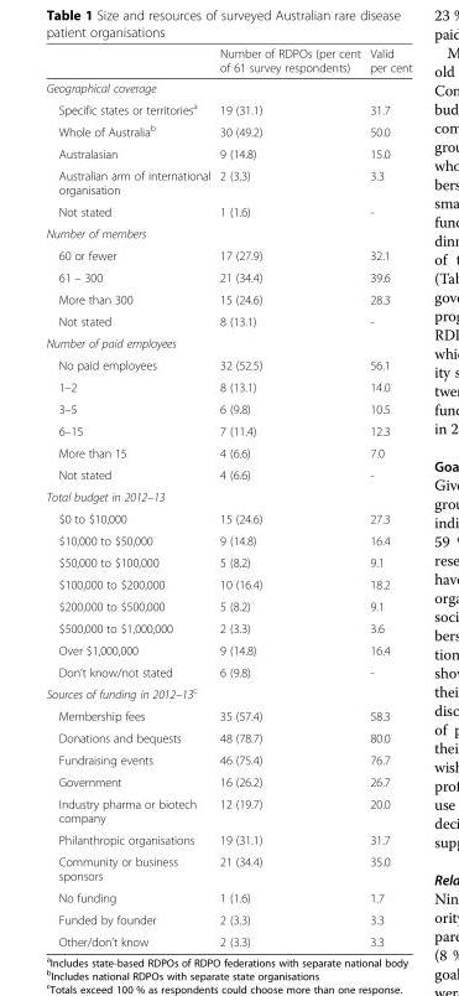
<table><thead><tr><td></td><td>Number of RDPOs (per cent of 61 survey respondents)</td><td>Valid per cent</td></tr></thead><tbody><tr><td colspan="3">Geographical coverage</td></tr><tr><td>Specific states or territories<sup>a</sup></td><td>19 (31.1)</td><td>31.7</td></tr><tr><td>Whole of Australia<sup>b</sup></td><td>30 (49.2)</td><td>50.0</td></tr><tr><td>Australasian</td><td>9 (14.8)</td><td>15.0</td></tr><tr><td>Australian arm of international organisation</td><td>2 (3.3)</td><td>3.3</td></tr><tr><td>Not stated</td><td>1 (1.6)</td><td>-</td></tr><tr><td colspan="3">Number of members</td></tr><tr><td>60 or fewer</td><td>17 (27.9)</td><td>32.1</td></tr><tr><td>61 – 300</td><td>21 (34.4)</td><td>39.6</td></tr><tr><td>More than 300</td><td>15 (24.6)</td><td>28.3</td></tr><tr><td>Not stated</td><td>8 (13.1)</td><td>-</td></tr><tr><td colspan="3">Number of paid employees</td></tr><tr><td>No paid employees</td><td>32 (52.5)</td><td>56.1</td></tr><tr><td>1–2</td><td>8 (13.1)</td><td>14.0</td></tr><tr><td>3–5</td><td>6 (9.8)</td><td>10.5</td></tr><tr><td>6–15</td><td>7 (11.4)</td><td>12.3</td></tr><tr><td>More than 15</td><td>4 (6.6)</td><td>7.0</td></tr><tr><td>Not stated</td><td>4 (6.6)</td><td>-</td></tr><tr><td colspan="3">Total budget in 2012–13</td></tr><tr><td>$0 to $10,000</td><td>15 (24.6)</td><td>27.3</td></tr><tr><td>$10,000 to $50,000</td><td>9 (14.8)</td><td>16.4</td></tr><tr><td>$50,000 to $100,000</td><td>5 (8.2)</td><td>9.1</td></tr><tr><td>$100,000 to $200,000</td><td>10 (16.4)</td><td>18.2</td></tr><tr><td>$200,000 to $500,000</td><td>5 (8.2)</td><td>9.1</td></tr><tr><td>$500,000 to $1,000,000</td><td>2 (3.3)</td><td>3.6</td></tr><tr><td>Over $1,000,000</td><td>9 (14.8)</td><td>16.4</td></tr><tr><td>Don’t know/not stated</td><td>6 (9.8)</td><td>-</td></tr><tr><td colspan="3">Sources of funding in 2012–13<sup>c</sup></td></tr><tr><td>Membership fees</td><td>35 (57.4)</td><td>58.3</td></tr><tr><td>Donations and bequests</td><td>48 (78.7)</td><td>80.0</td></tr><tr><td>Fundraising events</td><td>46 (75.4)</td><td>76.7</td></tr><tr><td>Government</td><td>16 (26.2)</td><td>26.7</td></tr><tr><td>Industry pharma or biotech company</td><td>12 (19.7)</td><td>20.0</td></tr><tr><td>Philanthropic organisations</td><td>19 (31.1)</td><td>31.7</td></tr><tr><td>Community or business sponsors</td><td>21 (34.4)</td><td>35.0</td></tr><tr><td>No funding</td><td>1 (1.6)</td><td>1.7</td></tr><tr><td>Funded by founder</td><td>2 (3.3)</td><td>3.3</td></tr><tr><td>Other/don’t know</td><td>2 (3.3)</td><td>3.3</td></tr></tbody></table>